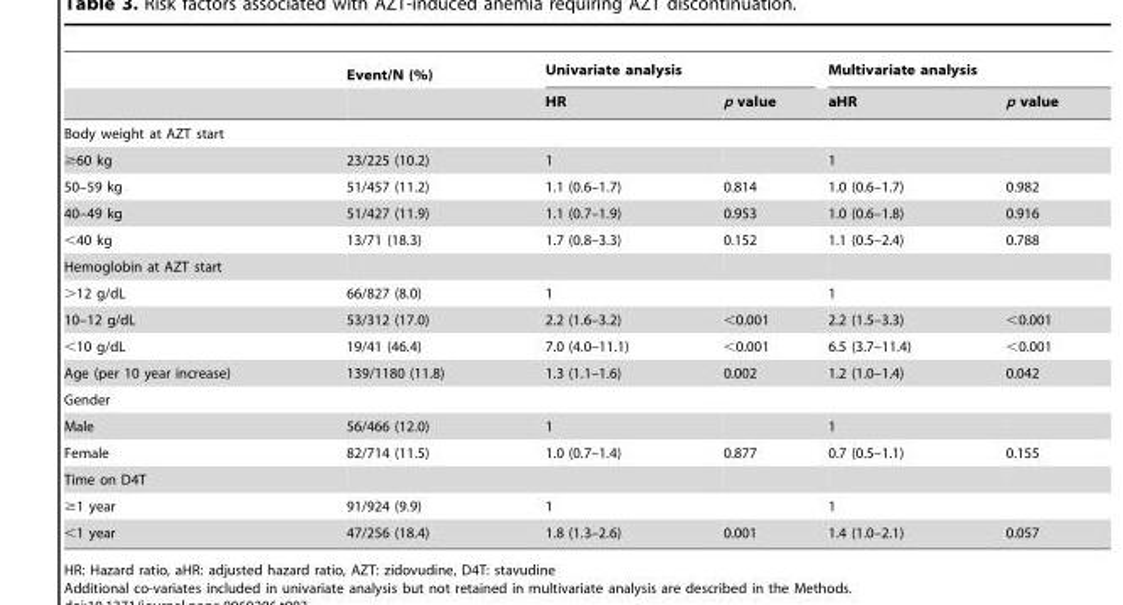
<table><thead><tr><td rowspan="2"></td><td rowspan="2">Event/N (%)</td><td colspan="2">Univariate analysis</td><td colspan="2">Multivariate analysis</td></tr><tr><td>HR</td><td>p value</td><td>aHR</td><td>p value</td></tr></thead><tbody><tr><td colspan="6">Body weight at AZT start</td></tr><tr><td>≥60 kg</td><td>23/225 (10.2)</td><td>1</td><td></td><td>1</td><td></td></tr><tr><td>50–59 kg</td><td>51/457 (11.2)</td><td>1.1 (0.6–1.7)</td><td>0.814</td><td>1.0 (0.6–1.7)</td><td>0.982</td></tr><tr><td>40–49 kg</td><td>51/427 (11.9)</td><td>1.1 (0.7–1.9)</td><td>0.953</td><td>1.0 (0.6–1.8)</td><td>0.916</td></tr><tr><td>&lt;40 kg</td><td>13/71 (18.3)</td><td>1.7 (0.8–3.3)</td><td>0.152</td><td>1.1 (0.5–2.4)</td><td>0.788</td></tr><tr><td colspan="6">Hemoglobin at AZT start</td></tr><tr><td>&gt;12 g/dL</td><td>66/827 (8.0)</td><td>1</td><td></td><td>1</td><td></td></tr><tr><td>10–12 g/dL</td><td>53/312 (17.0)</td><td>2.2 (1.6–3.2)</td><td>&lt;0.001</td><td>2.2 (1.5–3.3)</td><td>&lt;0.001</td></tr><tr><td>&lt;10 g/dL</td><td>19/41 (46.4)</td><td>7.0 (4.0–11.1)</td><td>&lt;0.001</td><td>6.5 (3.7–11.4)</td><td>&lt;0.001</td></tr><tr><td>Age (per 10 year increase)</td><td>139/1180 (11.8)</td><td>1.3 (1.1–1.6)</td><td>0.002</td><td>1.2 (1.0–1.4)</td><td>0.042</td></tr><tr><td colspan="6">Gender</td></tr><tr><td>Male</td><td>56/466 (12.0)</td><td>1</td><td></td><td>1</td><td></td></tr><tr><td>Female</td><td>82/714 (11.5)</td><td>1.0 (0.7–1.4)</td><td>0.877</td><td>0.7 (0.5–1.1)</td><td>0.155</td></tr><tr><td colspan="6">Time on D4T</td></tr><tr><td>≥1 year</td><td>91/924 (9.9)</td><td>1</td><td></td><td>1</td><td></td></tr><tr><td>&lt;1 year</td><td>47/256 (18.4)</td><td>1.8 (1.3–2.6)</td><td>0.001</td><td>1.4 (1.0–2.1)</td><td>0.057</td></tr></tbody></table>